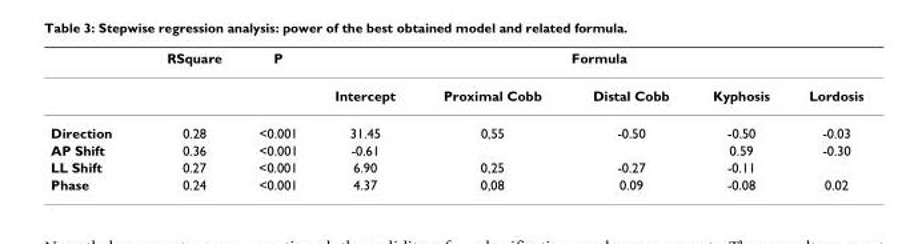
<table><thead><tr><td rowspan="2"></td><td rowspan="2">RSquare</td><td rowspan="2">P</td><td colspan="5">Formula</td></tr><tr><td>Intercept</td><td>Proximal Cobb</td><td>Distal Cobb</td><td>Kyphosis</td><td>Lordosis</td></tr></thead><tbody><tr><td>Direction</td><td>0.28</td><td>&lt;0.001</td><td>31.45</td><td>0,55</td><td>-0.50</td><td>-0.50</td><td>-0.03</td></tr><tr><td>AP Shift</td><td>0.36</td><td>&lt;0.001</td><td>-0.61</td><td></td><td></td><td>0.59</td><td>-0.30</td></tr><tr><td>LL Shift</td><td>0.27</td><td>&lt;0.001</td><td>6.90</td><td>0,25</td><td>-0.27</td><td>-0.11</td><td></td></tr><tr><td>Phase</td><td>0.24</td><td>&lt;0.001</td><td>4.37</td><td>0,08</td><td>0.09</td><td>-0.08</td><td>0.02</td></tr></tbody></table>